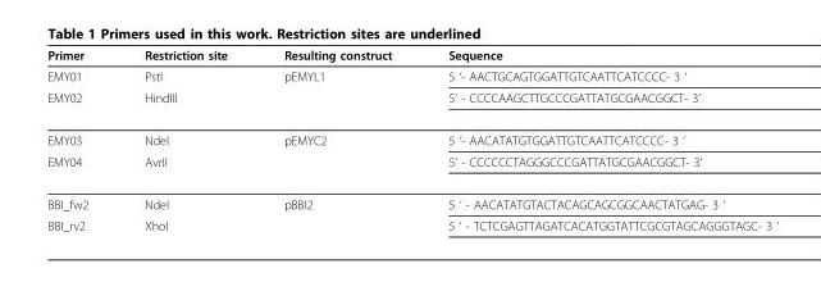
<table><thead><tr><td>Primer</td><td>Restriction site</td><td>Resulting construct</td><td>Sequence</td></tr></thead><tbody><tr><td>EMY01</td><td>PstI</td><td>pEMYL1</td><td>5 ‘- AACTGCAGTGGATTGTCAATTCATCCCC- 3 ‘</td></tr><tr><td>EMY02</td><td>HindIII</td><td></td><td>5’ - CCCCAAGCTTGCCCGATTATGCGAACGGCT- 3’</td></tr><tr><td>EMY03</td><td>NdeI</td><td>pEMYC2</td><td>5 ‘- AACATATGTGGATTGTCAATTCATCCCC- 3 ‘</td></tr><tr><td>EMY04</td><td>AvrII</td><td></td><td>5’ - CCCCCCTAGGGCCCGATTATGCGAACGGCT- 3’</td></tr><tr><td>BBI_fw2</td><td>NdeI</td><td>pBBI2</td><td>5 ‘ - AACATATGTACTACAGCAGCGGCAACTATGAG- 3 ‘</td></tr><tr><td>BBI_rv2</td><td>XhoI</td><td></td><td>5 ‘ - TCTCGAGTTAGATCACATGGTATTCGCGTAGCAGGGTAGC- 3</td></tr></tbody></table>